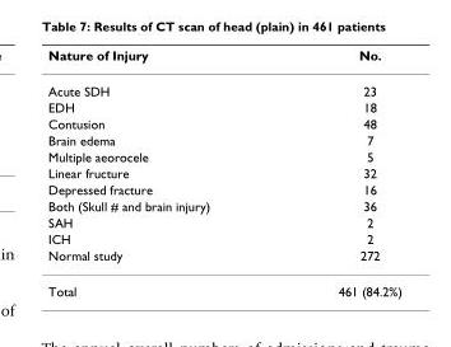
<table><thead><tr><td>Nature of Injury</td><td>No.</td></tr></thead><tbody><tr><td>Acute SDH</td><td>23</td></tr><tr><td>EDH</td><td>18</td></tr><tr><td>Contusion</td><td>48</td></tr><tr><td>Brain edema</td><td>7</td></tr><tr><td>Multiple aeorocele</td><td>5</td></tr><tr><td>Linear fructure</td><td>32</td></tr><tr><td>Depressed fracture</td><td>16</td></tr><tr><td>Both (Skull # and brain injury)</td><td>36</td></tr><tr><td>SAH</td><td>2</td></tr><tr><td>ICH</td><td>2</td></tr><tr><td>Normal study</td><td>272</td></tr><tr><td>Total</td><td>461 (84.2%)</td></tr></tbody></table>